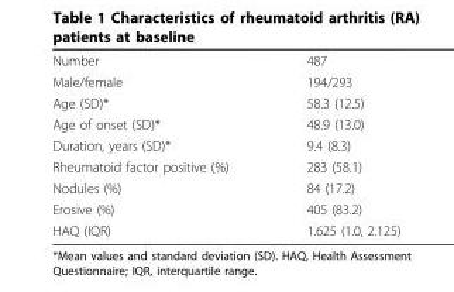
<table><tbody><tr><td>Number</td><td>487</td></tr><tr><td>Male/female</td><td>194/293</td></tr><tr><td>Age (SD)*</td><td>58.3 (12.5)</td></tr><tr><td>Age of onset (SD)*</td><td>48.9 (13.0)</td></tr><tr><td>Duration, years (SD)*</td><td>9.4 (8.3)</td></tr><tr><td>Rheumatoid factor positive (%)</td><td>283 (58.1)</td></tr><tr><td>Nodules (%)</td><td>84 (17.2)</td></tr><tr><td>Erosive (%)</td><td>405 (83.2)</td></tr><tr><td>HAQ (IQR)</td><td>1.625 (1.0, 2.125)</td></tr></tbody></table>